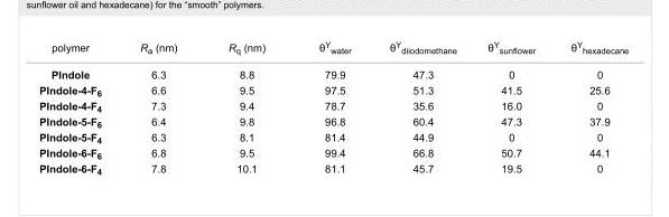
<table><tbody><tr><td>polymer</td><td>R<sub>a</sub> (nm)</td><td>R<sub>q</sub> (nm)</td><td>θ<sup>Y</sup><sub>water</sub></td><td>θ<sup>Y</sup><sub>diiodomethane</sub></td><td>θ<sup>Y</sup><sub>sunflower</sub></td><td>θ<sup>Y</sup><sub>hexadecane</sub></td></tr><tr><td>PIndole</td><td>6.3</td><td>8.8</td><td>79.9</td><td>47.3</td><td>0</td><td>0</td></tr><tr><td>PIndole-4-F<sub>6</sub></td><td>6.6</td><td>9.5</td><td>97.5</td><td>51.3</td><td>41.5</td><td>25.6</td></tr><tr><td>PIndole-4-F<sub>4</sub></td><td>7.3</td><td>9.4</td><td>78.7</td><td>35.6</td><td>16.0</td><td>0</td></tr><tr><td>PIndole-5-F<sub>6</sub></td><td>6.4</td><td>9.8</td><td>96.8</td><td>60.4</td><td>47.3</td><td>37.9</td></tr><tr><td>PIndole-5-F<sub>4</sub></td><td>6.3</td><td>8.1</td><td>81.4</td><td>44.9</td><td>0</td><td>0</td></tr><tr><td>PIndole-6-F<sub>6</sub></td><td>6.8</td><td>9.5</td><td>99.4</td><td>66.8</td><td>50.7</td><td>44.1</td></tr><tr><td>PIndole-6-F<sub>4</sub></td><td>7.8</td><td>10.1</td><td>81.1</td><td>45.7</td><td>19.5</td><td>0</td></tr></tbody></table>